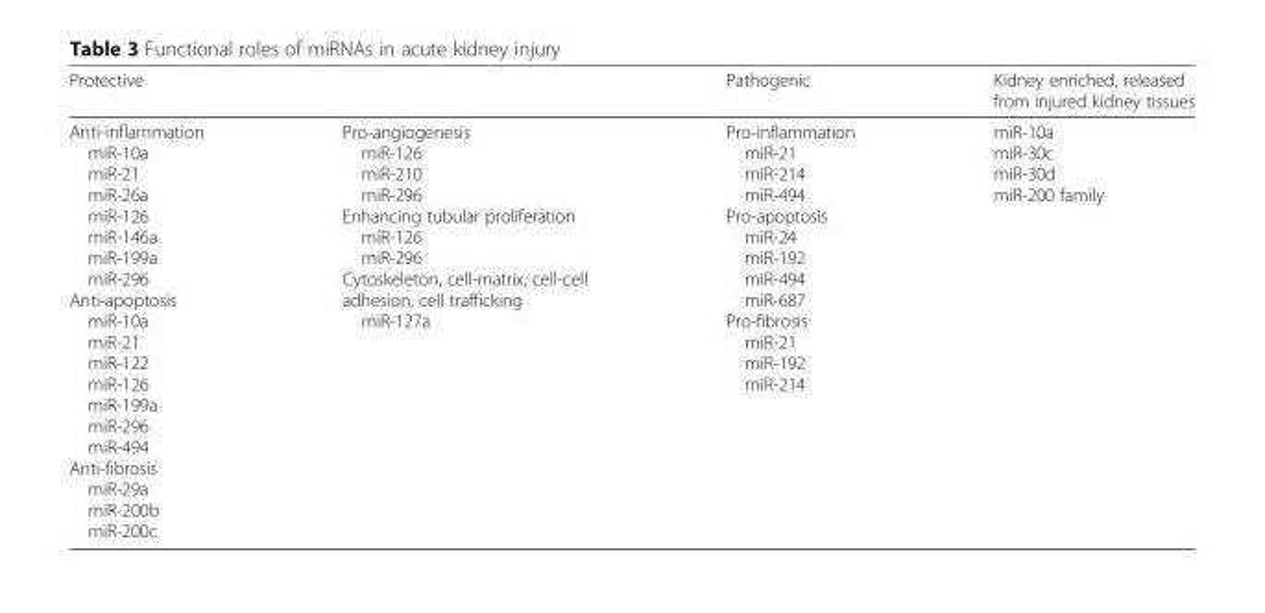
<table><thead><tr><td colspan="2">Protective</td><td rowspan="2">Pathogenic Pro-inflammation miR-21 miR-214 miR-494 Pro-apoptosis miR-24 miR-192 miR-494 miR-687 Pro-fibrosis miR-21 miR-192 miR-214</td><td rowspan="2">Kidney enriched, released from injured kidney tissues miR-10a miR-30c miR-30d miR-200 family</td></tr><tr><td>Anti-inflammation miR-10a miR-21 miR-26a miR-126 miR-146a miR-199a miR-296 Anti-apoptosis miR-10a miR-21 miR-122 miR-126 miR-199a miR-296 miR-494 Anti-fibrosis miR-29a miR-200b miR-200c</td><td>Pro-angiogenesis miR-126 miR-210 miR-296 Enhancing tubular proliferation miR-126 miR-296 Cytoskeleton, cell-matrix, cell-cell adhesion, cell trafficking miR-127a</td></tr></thead><tbody></tbody></table>